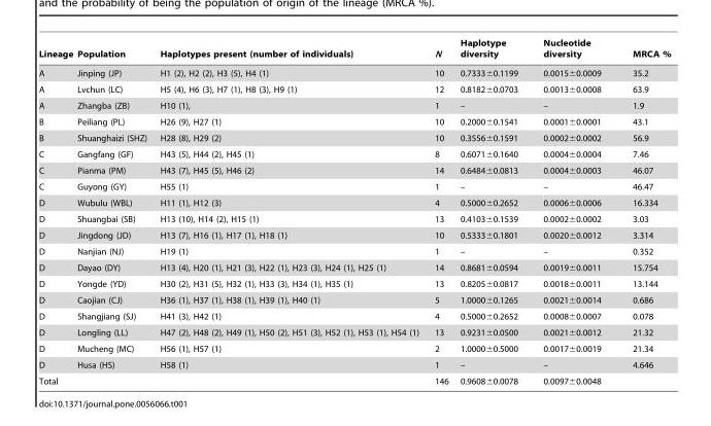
<table><thead><tr><td>Lineage</td><td>Population</td><td>Haplotypes present (number of individuals)</td><td>N</td><td>Haplotype diversity</td><td>Nucleotide diversity</td><td>MRCA %</td></tr></thead><tbody><tr><td>A</td><td>Jinping (JP)</td><td>H1 (2), H2 (2), H3 (5), H4 (1)</td><td>10</td><td>0.7333±0.1199</td><td>0.0015±0.0009</td><td>35.2</td></tr><tr><td>A</td><td>Lvchun (LC)</td><td>H5 (4), H6 (3), H7 (1), H8 (3), H9 (1)</td><td>12</td><td>0.8182±0.0703</td><td>0.0013±0.0008</td><td>63.9</td></tr><tr><td>A</td><td>Zhangba (ZB)</td><td>H10 (1),</td><td>1</td><td>–</td><td>–</td><td>1.9</td></tr><tr><td>B</td><td>Peiliang (PL)</td><td>H26 (9), H27 (1)</td><td>10</td><td>0.2000±0.1541</td><td>0.0001±0.0001</td><td>43.1</td></tr><tr><td>B</td><td>Shuanghaizi (SHZ)</td><td>H28 (8), H29 (2)</td><td>10</td><td>0.3556±0.1591</td><td>0.0002±0.0002</td><td>56.9</td></tr><tr><td>C</td><td>Gangfang (GF)</td><td>H43 (5), H44 (2), H45 (1)</td><td>8</td><td>0.6071±0.1640</td><td>0.0004±0.0004</td><td>7.46</td></tr><tr><td>C</td><td>Pianma (PM)</td><td>H43 (7), H45 (5), H46 (2)</td><td>14</td><td>0.6484±0.0813</td><td>0.0004±0.0003</td><td>46.07</td></tr><tr><td>C</td><td>Guyong (GY)</td><td>H55 (1)</td><td>1</td><td>–</td><td>–</td><td>46.47</td></tr><tr><td>D</td><td>Wubulu (WBL)</td><td>H11 (1), H12 (3)</td><td>4</td><td>0.5000±0.2652</td><td>0.0006±0.0006</td><td>16.334</td></tr><tr><td>D</td><td>Shuangbai (SB)</td><td>H13 (10), H14 (2), H15 (1)</td><td>13</td><td>0.4103±0.1539</td><td>0.0002±0.0002</td><td>3.03</td></tr><tr><td>D</td><td>Jingdong (JD)</td><td>H13 (7), H16 (1), H17 (1), H18 (1)</td><td>10</td><td>0.5333±0.1801</td><td>0.0020±0.0012</td><td>3.314</td></tr><tr><td>D</td><td>Nanjian (NJ)</td><td>H19 (1)</td><td>1</td><td>–</td><td>–</td><td>0.352</td></tr><tr><td>D</td><td>Dayao (DY)</td><td>H13 (4), H20 (1), H21 (3), H22 (1), H23 (3), H24 (1), H25 (1)</td><td>14</td><td>0.8681±0.0594</td><td>0.0019±0.0011</td><td>15.754</td></tr><tr><td>D</td><td>Yongde (YD)</td><td>H30 (2), H31 (5), H32 (1), H33 (3), H34 (1), H35 (1)</td><td>13</td><td>0.8205±0.0817</td><td>0.0018±0.0011</td><td>13.144</td></tr><tr><td>D</td><td>Caojian (CJ)</td><td>H36 (1), H37 (1), H38 (1), H39 (1), H40 (1)</td><td>5</td><td>1.0000±0.1265</td><td>0.0021±0.0014</td><td>0.686</td></tr><tr><td>D</td><td>Shangjiang (SJ)</td><td>H41 (3), H42 (1)</td><td>4</td><td>0.5000±0.2652</td><td>0.0008±0.0007</td><td>0.078</td></tr><tr><td>D</td><td>Longling (LL)</td><td>H47 (2), H48 (2), H49 (1), H50 (2), H51 (3), H52 (1), H53 (1), H54 (1)</td><td>13</td><td>0.9231±0.0500</td><td>0.0021±0.0012</td><td>21.32</td></tr><tr><td>D</td><td>Mucheng (MC)</td><td>H56 (1), H57 (1)</td><td>2</td><td>1.0000±0.5000</td><td>0.0017±0.0019</td><td>21.34</td></tr><tr><td>D</td><td>Husa (HS)</td><td>H58 (1)</td><td>1</td><td>–</td><td>–</td><td>4.646</td></tr><tr><td>Total</td><td></td><td></td><td>146</td><td>0.9608±0.0078</td><td>0.0097±0.0048</td><td></td></tr></tbody></table>